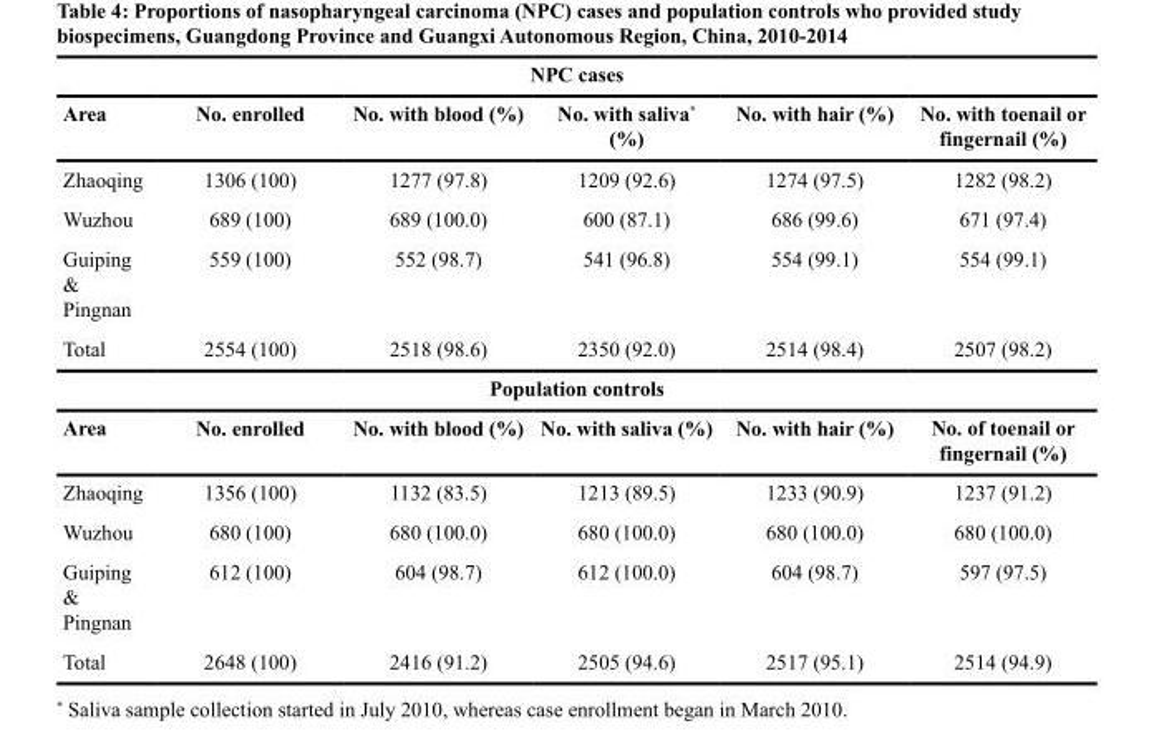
<table><thead><tr><td colspan="6">NPC cases</td></tr><tr><td>Area</td><td>No. enrolled</td><td>No. with blood (%)</td><td>No. with saliva* (%)</td><td>No. with hair (%)</td><td>No. with toenail or fingernail (%)</td></tr></thead><tbody><tr><td>Zhaoqing</td><td>1306 (100)</td><td>1277 (97.8)</td><td>1209 (92.6)</td><td>1274 (97.5)</td><td>1282 (98.2)</td></tr><tr><td>Wuzhou</td><td>689 (100)</td><td>689 (100.0)</td><td>600 (87.1)</td><td>686 (99.6)</td><td>671 (97.4)</td></tr><tr><td>Guiping &amp; Pingnan</td><td>559 (100)</td><td>552 (98.7)</td><td>541 (96.8)</td><td>554 (99.1)</td><td>554 (99.1)</td></tr><tr><td>Total</td><td>2554 (100)</td><td>2518 (98.6)</td><td>2350 (92.0)</td><td>2514 (98.4)</td><td>2507 (98.2)</td></tr><tr><td colspan="6">Population controls</td></tr><tr><td>Area</td><td>No. enrolled</td><td>No. with blood (%)</td><td>No. with saliva (%)</td><td>No. with hair (%)</td><td>No. of toenail or fingernail (%)</td></tr><tr><td>Zhaoqing</td><td>1356 (100)</td><td>1132 (83.5)</td><td>1213 (89.5)</td><td>1233 (90.9)</td><td>1237 (91.2)</td></tr><tr><td>Wuzhou</td><td>680 (100)</td><td>680 (100.0)</td><td>680 (100.0)</td><td>680 (100.0)</td><td>680 (100.0)</td></tr><tr><td>Guiping &amp; Pingnan</td><td>612 (100)</td><td>604 (98.7)</td><td>612 (100.0)</td><td>604 (98.7)</td><td>597 (97.5)</td></tr><tr><td>Total</td><td>2648 (100)</td><td>2416 (91.2)</td><td>2505 (94.6)</td><td>2517 (95.1)</td><td>2514 (94.9)</td></tr></tbody></table>